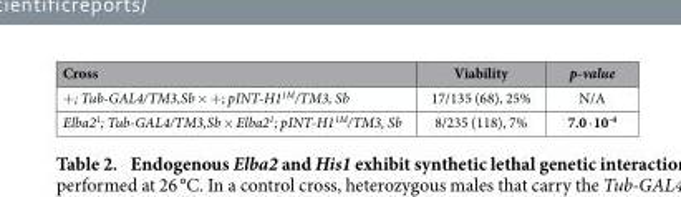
<table><thead><tr><td>Cross</td><td>Viability</td><td>p-value</td></tr></thead><tbody><tr><td>+ ; Tub-GAL4/TM3,Sb × + ; pINT-H1<sup>1M</sup>/TM3, Sb</td><td>17/135 (68), 25%</td><td>N/A</td></tr><tr><td>Elba2<sup>1</sup>; Tub-GAL4/TM3,Sb × Elba2<sup>1</sup>; pINT-H1<sup>1M</sup>/TM3, Sb</td><td>8/235 (118), 7%</td><td>7.0 · 10<sup>-4</sup></td></tr></tbody></table>